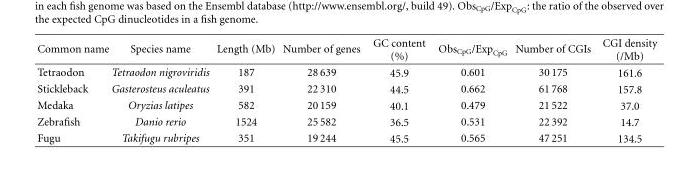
<table><thead><tr><td>Common name</td><td>Species name</td><td>Length (Mb)</td><td>Number of genes</td><td>GC content (%)</td><td>Obs<sub>CpG</sub>/Exp<sub>CpG</sub></td><td>Number of CGIs</td><td>CGI density (/Mb)</td></tr></thead><tbody><tr><td>Tetraodon</td><td>Tetraodon nigroviridis</td><td>187</td><td>28 639</td><td>45.9</td><td>0.601</td><td>30 175</td><td>161.6</td></tr><tr><td>Stickleback</td><td>Gasterosteus aculeatus</td><td>391</td><td>22 310</td><td>44.5</td><td>0.662</td><td>61 768</td><td>157.8</td></tr><tr><td>Medaka</td><td>Oryzias latipes</td><td>582</td><td>20 159</td><td>40.1</td><td>0.479</td><td>21 522</td><td>37.0</td></tr><tr><td>Zebrafish</td><td>Danio rerio</td><td>1524</td><td>25 582</td><td>36.5</td><td>0.531</td><td>22 392</td><td>14.7</td></tr><tr><td>Fugu</td><td>Takifugu rubripes</td><td>351</td><td>19 244</td><td>45.5</td><td>0.565</td><td>47 251</td><td>134.5</td></tr></tbody></table>